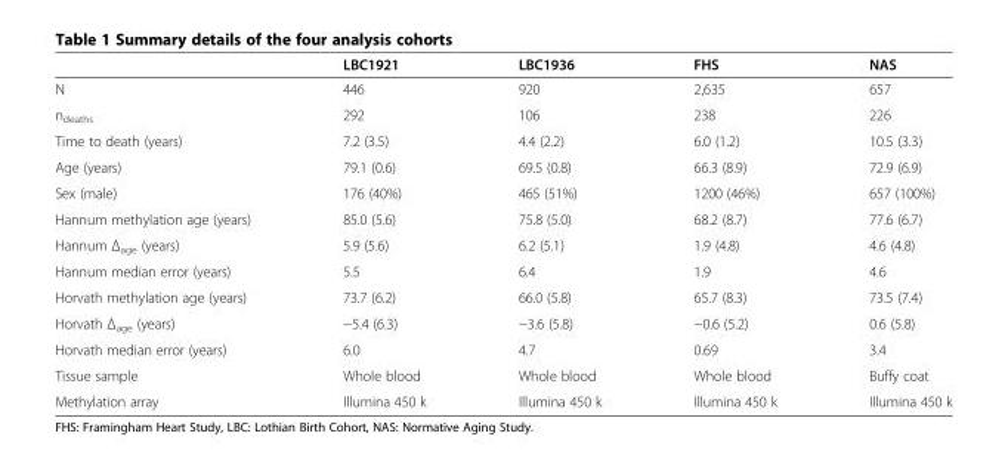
<table><thead><tr><td></td><td>LBC1921</td><td>LBC1936</td><td>FHS</td><td>NAS</td></tr></thead><tbody><tr><td>N</td><td>446</td><td>920</td><td>2,635</td><td>657</td></tr><tr><td>n<sub>deaths</sub></td><td>292</td><td>106</td><td>238</td><td>226</td></tr><tr><td>Time to death (years)</td><td>7.2 (3.5)</td><td>4.4 (2.2)</td><td>6.0 (1.2)</td><td>10.5 (3.3)</td></tr><tr><td>Age (years)</td><td>79.1 (0.6)</td><td>69.5 (0.8)</td><td>66.3 (8.9)</td><td>72.9 (6.9)</td></tr><tr><td>Sex (male)</td><td>176 (40%)</td><td>465 (51%)</td><td>1200 (46%)</td><td>657 (100%)</td></tr><tr><td>Hannum methylation age (years)</td><td>85.0 (5.6)</td><td>75.8 (5.0)</td><td>68.2 (8.7)</td><td>77.6 (6.7)</td></tr><tr><td>Hannum Δ<sub>age</sub> (years)</td><td>5.9 (5.6)</td><td>6.2 (5.1)</td><td>1.9 (4.8)</td><td>4.6 (4.8)</td></tr><tr><td>Hannum median error (years)</td><td>5.5</td><td>6.4</td><td>1.9</td><td>4.6</td></tr><tr><td>Horvath methylation age (years)</td><td>73.7 (6.2)</td><td>66.0 (5.8)</td><td>65.7 (8.3)</td><td>73.5 (7.4)</td></tr><tr><td>Horvath Δ<sub>age</sub> (years)</td><td>−5.4 (6.3)</td><td>−3.6 (5.8)</td><td>−0.6 (5.2)</td><td>0.6 (5.8)</td></tr><tr><td>Horvath median error (years)</td><td>6.0</td><td>4.7</td><td>0.69</td><td>3.4</td></tr><tr><td>Tissue sample</td><td>Whole blood</td><td>Whole blood</td><td>Whole blood</td><td>Buffy coat</td></tr><tr><td>Methylation array</td><td>Illumina 450 k</td><td>Illumina 450 k</td><td>Illumina 450 k</td><td>Illumina 450 k</td></tr></tbody></table>